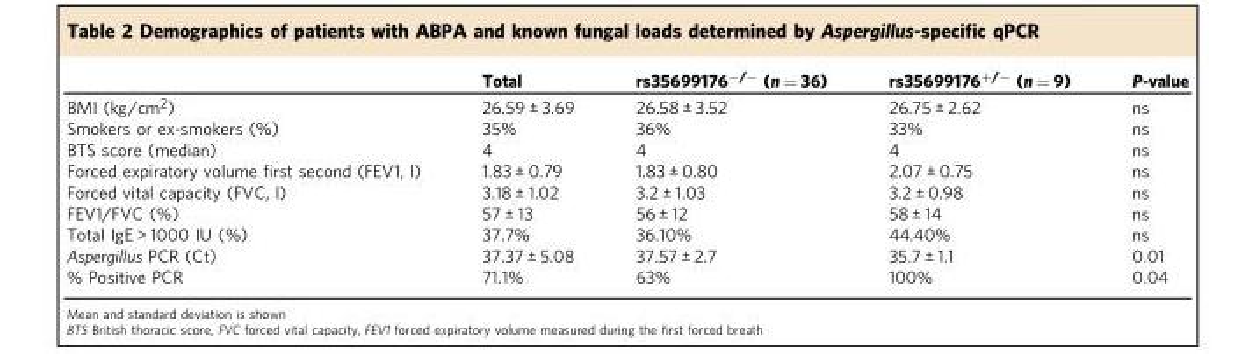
<table><thead><tr><td></td><td>Total</td><td>rs35699176<sup>−/−</sup> (n = 36)</td><td>rs35699176<sup>+/−</sup> (n = 9)</td><td>P-value</td></tr></thead><tbody><tr><td>BMI (kg/cm<sup>2</sup>)</td><td>26.59 ± 3.69</td><td>26.58 ± 3.52</td><td>26.75 ± 2.62</td><td>ns</td></tr><tr><td>Smokers or ex-smokers (%)</td><td>35%</td><td>36%</td><td>33%</td><td>ns</td></tr><tr><td>BTS score (median)</td><td>4</td><td>4</td><td>4</td><td>ns</td></tr><tr><td>Forced expiratory volume first second (FEV1, l)</td><td>1.83 ± 0.79</td><td>1.83 ± 0.80</td><td>2.07 ± 0.75</td><td>ns</td></tr><tr><td>Forced vital capacity (FVC, l)</td><td>3.18 ± 1.02</td><td>3.2 ± 1.03</td><td>3.2 ± 0.98</td><td>ns</td></tr><tr><td>FEV1/FVC (%)</td><td>57 ± 13</td><td>56 ± 12</td><td>58 ± 14</td><td>ns</td></tr><tr><td>Total IgE &gt; 1000 IU (%)</td><td>37.7%</td><td>36.10%</td><td>44.40%</td><td>ns</td></tr><tr><td>Aspergillus PCR (Ct)</td><td>37.37 ± 5.08</td><td>37.57 ± 2.7</td><td>35.7 ± 1.1</td><td>0.01</td></tr><tr><td>% Positive PCR</td><td>71.1%</td><td>63%</td><td>100%</td><td>0.04</td></tr></tbody></table>